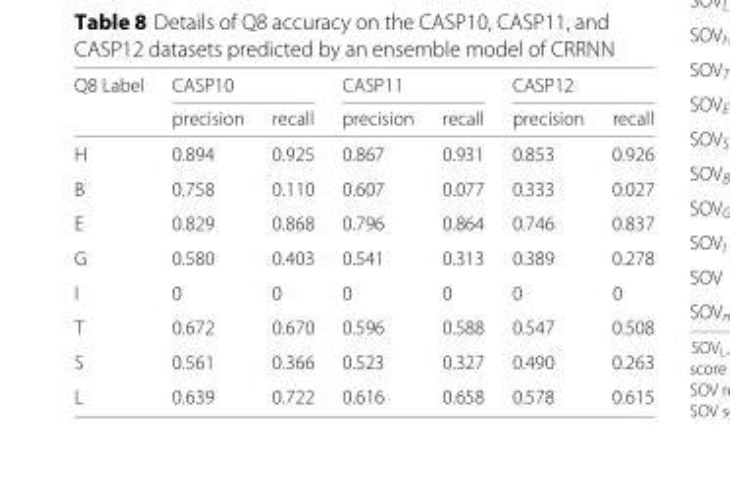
<table><thead><tr><td rowspan="2">Q8 Label</td><td colspan="2">CASP10</td><td colspan="2">CASP11</td><td colspan="2">CASP12</td></tr><tr><td>precision</td><td>recall</td><td>precision</td><td>recall</td><td>precision</td><td>recall</td></tr></thead><tbody><tr><td>H</td><td>0.894</td><td>0.925</td><td>0.867</td><td>0.931</td><td>0.853</td><td>0.926</td></tr><tr><td>B</td><td>0.758</td><td>0.110</td><td>0.607</td><td>0.077</td><td>0.333</td><td>0.027</td></tr><tr><td>E</td><td>0.829</td><td>0.868</td><td>0.796</td><td>0.864</td><td>0.746</td><td>0.837</td></tr><tr><td>G</td><td>0.580</td><td>0.403</td><td>0.541</td><td>0.313</td><td>0.389</td><td>0.278</td></tr><tr><td>I</td><td>0</td><td>0</td><td>0</td><td>0</td><td>0</td><td>0</td></tr><tr><td>T</td><td>0.672</td><td>0.670</td><td>0.596</td><td>0.588</td><td>0.547</td><td>0.508</td></tr><tr><td>S</td><td>0.561</td><td>0.366</td><td>0.523</td><td>0.327</td><td>0.490</td><td>0.263</td></tr><tr><td>L</td><td>0.639</td><td>0.722</td><td>0.616</td><td>0.658</td><td>0.578</td><td>0.615</td></tr></tbody></table>